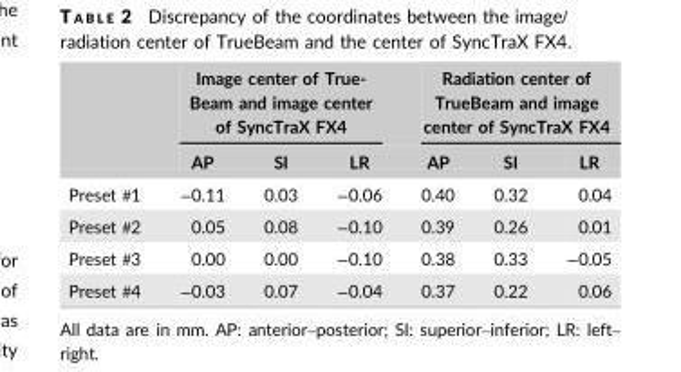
<table><thead><tr><td rowspan="2"></td><td colspan="3">Image center of True- Beam and image center of SyncTraX FX4</td><td colspan="3">Radiation center of TrueBeam and image center of SyncTraX FX4</td></tr><tr><td>AP</td><td>SI</td><td>LR</td><td>AP</td><td>SI</td><td>LR</td></tr></thead><tbody><tr><td>Preset #1</td><td>−0.11</td><td>0.03</td><td>−0.06</td><td>0.40</td><td>0.32</td><td>0.04</td></tr><tr><td>Preset #2</td><td>0.05</td><td>0.08</td><td>−0.10</td><td>0.39</td><td>0.26</td><td>0.01</td></tr><tr><td>Preset #3</td><td>0.00</td><td>0.00</td><td>−0.10</td><td>0.38</td><td>0.33</td><td>−0.05</td></tr><tr><td>Preset #4</td><td>−0.03</td><td>0.07</td><td>−0.04</td><td>0.37</td><td>0.22</td><td>0.06</td></tr></tbody></table>